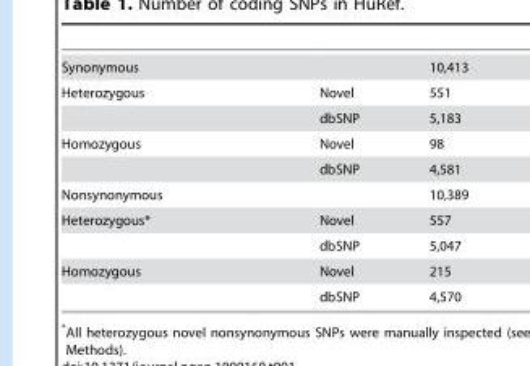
<table><tbody><tr><td>Synonymous</td><td></td><td>10,413</td></tr><tr><td rowspan="2">Heterozygous</td><td>Novel</td><td>551</td></tr><tr><td>dbSNP</td><td>5,183</td></tr><tr><td rowspan="2">Homozygous</td><td>Novel</td><td>98</td></tr><tr><td>dbSNP</td><td>4,581</td></tr><tr><td>Nonsynonymous</td><td></td><td>10,389</td></tr><tr><td rowspan="2">Heterozygous*</td><td>Novel</td><td>557</td></tr><tr><td>dbSNP</td><td>5,047</td></tr><tr><td rowspan="2">Homozygous</td><td>Novel</td><td>215</td></tr><tr><td>dbSNP</td><td>4,570</td></tr></tbody></table>